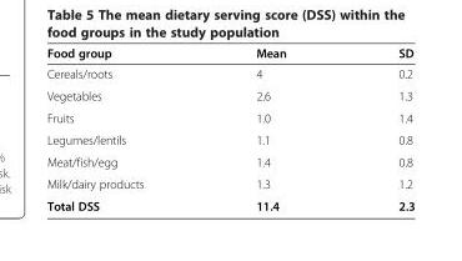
<table><thead><tr><td>Food group</td><td>Mean</td><td>SD</td></tr></thead><tbody><tr><td>Cereals/roots</td><td>4</td><td>0.2</td></tr><tr><td>Vegetables</td><td>2.6</td><td>1.3</td></tr><tr><td>Fruits</td><td>1.0</td><td>1.4</td></tr><tr><td>Legumes/lentils</td><td>1.1</td><td>0.8</td></tr><tr><td>Meat/fish/egg</td><td>1.4</td><td>0.8</td></tr><tr><td>Milk/dairy products</td><td>1.3</td><td>1.2</td></tr><tr><td>Total DSS</td><td>11.4</td><td>2.3</td></tr></tbody></table>